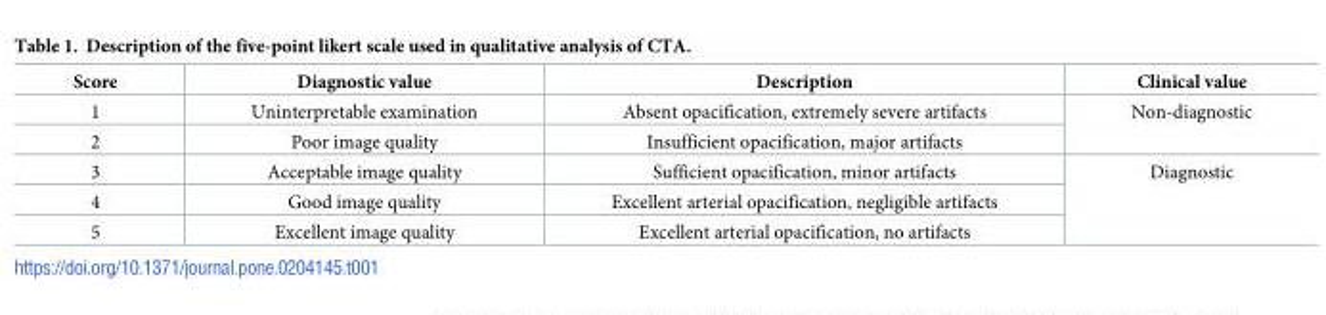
<table><thead><tr><td>Score</td><td>Diagnostic value</td><td>Description</td><td>Clinical value</td></tr></thead><tbody><tr><td>1</td><td>Uninterpretable examination</td><td>Absent opacification, extremely severe artifacts</td><td rowspan="2">Non-diagnostic</td></tr><tr><td>2</td><td>Poor image quality</td><td>Insufficient opacification, major artifacts</td></tr><tr><td>3</td><td>Acceptable image quality</td><td>Sufficient opacification, minor artifacts</td><td rowspan="3">Diagnostic</td></tr><tr><td>4</td><td>Good image quality</td><td>Excellent arterial opacification, negligible artifacts</td></tr><tr><td>5</td><td>Excellent image quality</td><td>Excellent arterial opacification, no artifacts</td></tr></tbody></table>